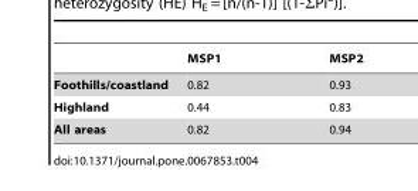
<table><thead><tr><td></td><td>MSP1</td><td>MSP2</td></tr></thead><tbody><tr><td>Foothills/coastland</td><td>0.82</td><td>0.93</td></tr><tr><td>Highland</td><td>0.44</td><td>0.83</td></tr><tr><td>All areas</td><td>0.82</td><td>0.94</td></tr></tbody></table>